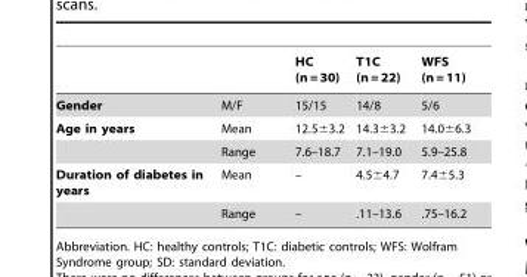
<table><thead><tr><td></td><td></td><td>HC (n = 30)</td><td>T1C (n = 22)</td><td>WFS (n = 11)</td></tr></thead><tbody><tr><td>Gender</td><td>M/F</td><td>15/15</td><td>14/8</td><td>5/6</td></tr><tr><td rowspan="2">Age in years</td><td>Mean</td><td>12.5±3.2</td><td>14.3±3.2</td><td>14.0±6.3</td></tr><tr><td>Range</td><td>7.6–18.7</td><td>7.1–19.0</td><td>5.9–25.8</td></tr><tr><td rowspan="2">Duration of diabetes in years</td><td>Mean</td><td>–</td><td>4.5±4.7</td><td>7.4±5.3</td></tr><tr><td>Range</td><td>–</td><td>.11–13.6</td><td>.75–16.2</td></tr></tbody></table>